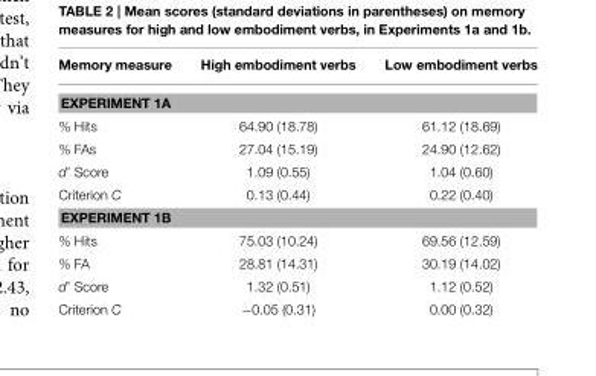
<table><thead><tr><td>Memory measure</td><td>High embodiment verbs</td><td>Low embodiment verbs</td></tr></thead><tbody><tr><td colspan="3">EXPERIMENT 1A</td></tr><tr><td>% Hits</td><td>64.90 (18.78)</td><td>61.12 (18.69)</td></tr><tr><td>% FAs</td><td>27.04 (15.19)</td><td>24.90 (12.62)</td></tr><tr><td>d’ Score</td><td>1.09 (0.55)</td><td>1.04 (0.60)</td></tr><tr><td>Criterion C</td><td>0.13 (0.44)</td><td>0.22 (0.40)</td></tr><tr><td colspan="3">EXPERIMENT 1B</td></tr><tr><td>% Hits</td><td>75.03 (10.24)</td><td>69.56 (12.59)</td></tr><tr><td>% FA</td><td>28.81 (14.31)</td><td>30.19 (14.02)</td></tr><tr><td>d’ Score</td><td>1.32 (0.51)</td><td>1.12 (0.52)</td></tr><tr><td>Criterion C</td><td>−0.05 (0.31)</td><td>0.00 (0.32)</td></tr></tbody></table>